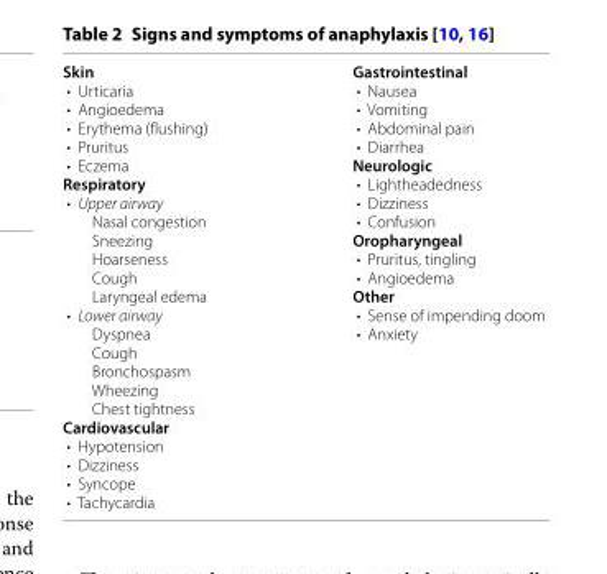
<table><tbody><tr><td>Skin • Urticaria • Angioedema • Erythema (flushing) • Pruritus • Eczema Respiratory • Upper airway Nasal congestion Sneezing Hoarseness Cough Laryngeal edema • Lower airway Dyspnea Cough Bronchospasm Wheezing Chest tightness Cardiovascular • Hypotension • Dizziness • Syncope • Tachycardia</td><td>Gastrointestinal • Nausea • Vomiting • Abdominal pain • Diarrhea Neurologic • Lightheadedness • Dizziness • Confusion Oropharyngeal • Pruritus, tingling • Angioedema Other • Sense of impending doom • Anxiety</td></tr></tbody></table>